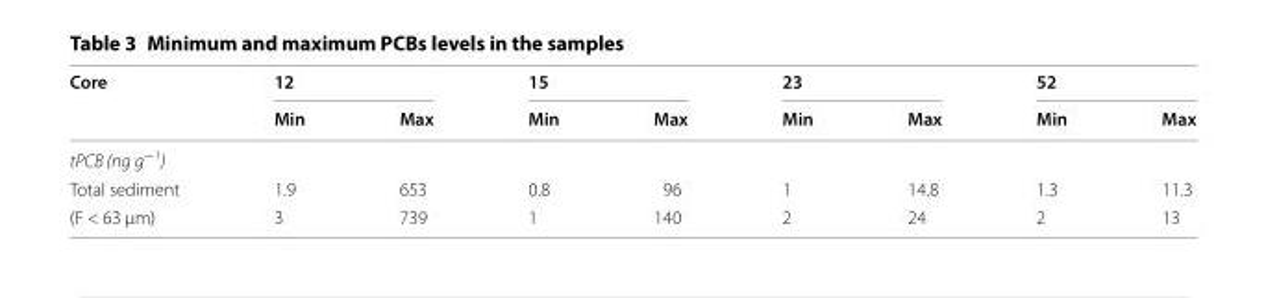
<table><thead><tr><td rowspan="2">Core</td><td colspan="2">12</td><td colspan="2">15</td><td colspan="2">23</td><td colspan="2">52</td></tr><tr><td>Min</td><td>Max</td><td>Min</td><td>Max</td><td>Min</td><td>Max</td><td>Min</td><td>Max</td></tr></thead><tbody><tr><td colspan="9">tPCB (ng g<sup>−1</sup>)</td></tr><tr><td>Total sediment</td><td>1.9</td><td>653</td><td>0.8</td><td>96</td><td>1</td><td>14.8</td><td>1.3</td><td>11.3</td></tr><tr><td>(F &lt; 63 μm)</td><td>3</td><td>739</td><td>1</td><td>140</td><td>2</td><td>24</td><td>2</td><td>13</td></tr></tbody></table>